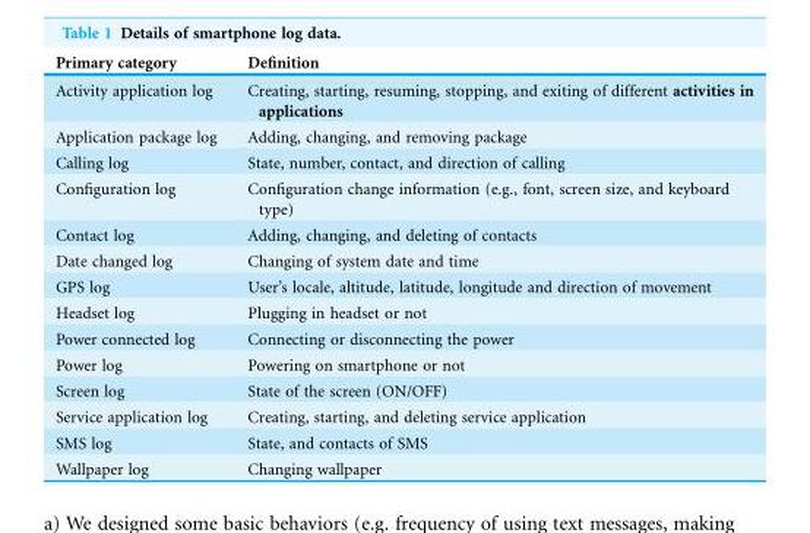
<table><thead><tr><td>Primary category</td><td>Definition</td></tr></thead><tbody><tr><td>Activity application log</td><td>Creating, starting, resuming, stopping, and exiting of different activities in applications</td></tr><tr><td>Application package log</td><td>Adding, changing, and removing package</td></tr><tr><td>Calling log</td><td>State, number, contact, and direction of calling</td></tr><tr><td>Configuration log</td><td>Configuration change information (e.g., font, screen size, and keyboard type)</td></tr><tr><td>Contact log</td><td>Adding, changing, and deleting of contacts</td></tr><tr><td>Date changed log</td><td>Changing of system date and time</td></tr><tr><td>GPS log</td><td>User’s locale, altitude, latitude, longitude and direction of movement</td></tr><tr><td>Headset log</td><td>Plugging in headset or not</td></tr><tr><td>Power connected log</td><td>Connecting or disconnecting the power</td></tr><tr><td>Power log</td><td>Powering on smartphone or not</td></tr><tr><td>Screen log</td><td>State of the screen (ON/OFF)</td></tr><tr><td>Service application log</td><td>Creating, starting, and deleting service application</td></tr><tr><td>SMS log</td><td>State, and contacts of SMS</td></tr><tr><td>Wallpaper log</td><td>Changing wallpaper</td></tr></tbody></table>